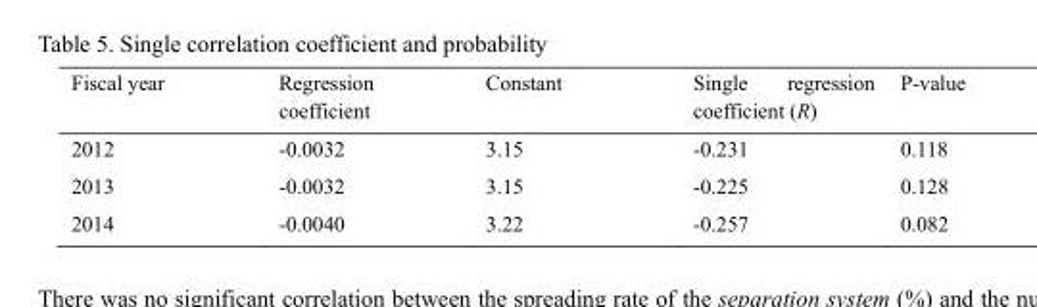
<table><thead><tr><td>Fiscal year</td><td>Regression coefficient</td><td>Constant</td><td>Single regression coefficient (R)</td><td>P-value</td></tr></thead><tbody><tr><td>2012</td><td>-0.0032</td><td>3.15</td><td>-0.231</td><td>0.118</td></tr><tr><td>2013</td><td>-0.0032</td><td>3.15</td><td>-0.225</td><td>0.128</td></tr><tr><td>2014</td><td>-0.0040</td><td>3.22</td><td>-0.257</td><td>0.082</td></tr></tbody></table>